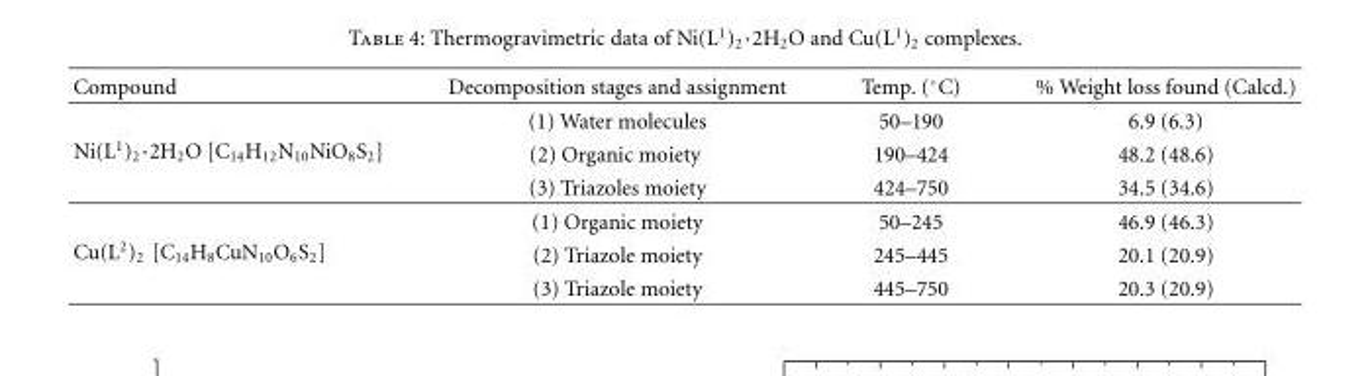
<table><thead><tr><td>Compound</td><td>Decomposition stages and assignment</td><td>Temp. (◦C)</td><td>% Weight loss found (Calcd.)</td></tr></thead><tbody><tr><td rowspan="3">Ni(L<sup>1</sup>)<sub>2</sub>·2H<sub>2</sub>O [C<sub>14</sub>H<sub>12</sub>N<sub>10</sub>NiO<sub>8</sub>S<sub>2</sub>]</td><td>(1) Water molecules</td><td>50–190</td><td>6.9 (6.3)</td></tr><tr><td>(2) Organic moiety</td><td>190–424</td><td>48.2 (48.6)</td></tr><tr><td>(3) Triazoles moiety</td><td>424–750</td><td>34.5 (34.6)</td></tr><tr><td rowspan="3">Cu(L<sup>2</sup>)<sub>2</sub> [C<sub>14</sub>H<sub>8</sub>CuN<sub>10</sub>O<sub>6</sub>S<sub>2</sub>]</td><td>(1) Organic moiety</td><td>50–245</td><td>46.9 (46.3)</td></tr><tr><td>(2) Triazole moiety</td><td>245–445</td><td>20.1 (20.9)</td></tr><tr><td>(3) Triazole moiety</td><td>445–750</td><td>20.3 (20.9)</td></tr></tbody></table>